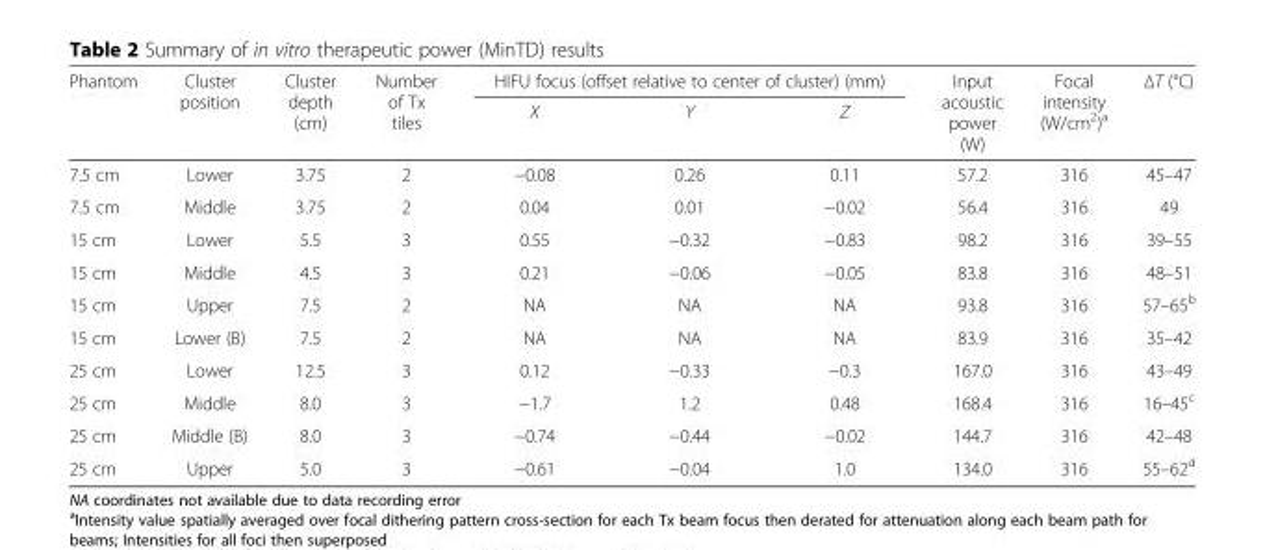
<table><thead><tr><td rowspan="2">Phantom</td><td rowspan="2">Cluster position</td><td rowspan="2">Cluster depth (cm)</td><td rowspan="2">Number of Tx tiles</td><td colspan="3">HIFU focus (offset relative to center of cluster) (mm)</td><td rowspan="2">Input acoustic power (W)</td><td rowspan="2">Focal intensity (W/cm<sup>2</sup>)<sup>a</sup></td><td rowspan="2">ΔT (°C)</td></tr><tr><td>X</td><td>Y</td><td>Z</td></tr></thead><tbody><tr><td>7.5 cm</td><td>Lower</td><td>3.75</td><td>2</td><td>−0.08</td><td>0.26</td><td>0.11</td><td>57.2</td><td>316</td><td>45–47</td></tr><tr><td>7.5 cm</td><td>Middle</td><td>3.75</td><td>2</td><td>0.04</td><td>0.01</td><td>−0.02</td><td>56.4</td><td>316</td><td>49</td></tr><tr><td>15 cm</td><td>Lower</td><td>5.5</td><td>3</td><td>0.55</td><td>−0.32</td><td>−0.83</td><td>98.2</td><td>316</td><td>39–55</td></tr><tr><td>15 cm</td><td>Middle</td><td>4.5</td><td>3</td><td>0.21</td><td>−0.06</td><td>−0.05</td><td>83.8</td><td>316</td><td>48–51</td></tr><tr><td>15 cm</td><td>Upper</td><td>7.5</td><td>2</td><td>NA</td><td>NA</td><td>NA</td><td>93.8</td><td>316</td><td>57–65<sup>b</sup></td></tr><tr><td>15 cm</td><td>Lower (B)</td><td>7.5</td><td>2</td><td>NA</td><td>NA</td><td>NA</td><td>83.9</td><td>316</td><td>35–42</td></tr><tr><td>25 cm</td><td>Lower</td><td>12.5</td><td>3</td><td>0.12</td><td>−0.33</td><td>−0.3</td><td>167.0</td><td>316</td><td>43–49</td></tr><tr><td>25 cm</td><td>Middle</td><td>8.0</td><td>3</td><td>−1.7</td><td>1.2</td><td>0.48</td><td>168.4</td><td>316</td><td>16–45<sup>c</sup></td></tr><tr><td>25 cm</td><td>Middle (B)</td><td>8.0</td><td>3</td><td>−0.74</td><td>−0.44</td><td>−0.02</td><td>144.7</td><td>316</td><td>42–48</td></tr><tr><td>25 cm</td><td>Upper</td><td>5.0</td><td>3</td><td>−0.61</td><td>−0.04</td><td>1.0</td><td>134.0</td><td>316</td><td>55–62<sup>d</sup></td></tr></tbody></table>